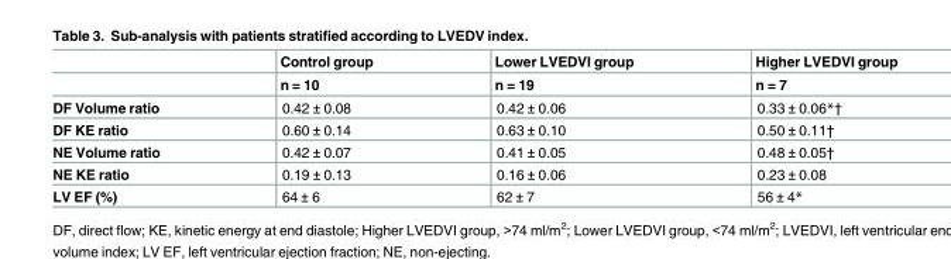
<table><thead><tr><td rowspan="2"></td><td rowspan="2">Control group n = 10</td><td rowspan="2">Lower LVEDVI group n = 19</td><td rowspan="2">Higher LVEDVI group n = 7</td></tr><tr></tr></thead><tbody><tr><td>DF Volume ratio</td><td>0.42 ± 0.08</td><td>0.42 ± 0.06</td><td>0.33 ± 0.06*†</td></tr><tr><td>DF KE ratio</td><td>0.60 ± 0.14</td><td>0.63 ± 0.10</td><td>0.50 ± 0.11†</td></tr><tr><td>NE Volume ratio</td><td>0.42 ± 0.07</td><td>0.41 ± 0.05</td><td>0.48 ± 0.05†</td></tr><tr><td>NE KE ratio</td><td>0.19 ± 0.13</td><td>0.16 ± 0.06</td><td>0.23 ± 0.08</td></tr><tr><td>LV EF (%)</td><td>64 ± 6</td><td>62 ± 7</td><td>56 ± 4*</td></tr></tbody></table>